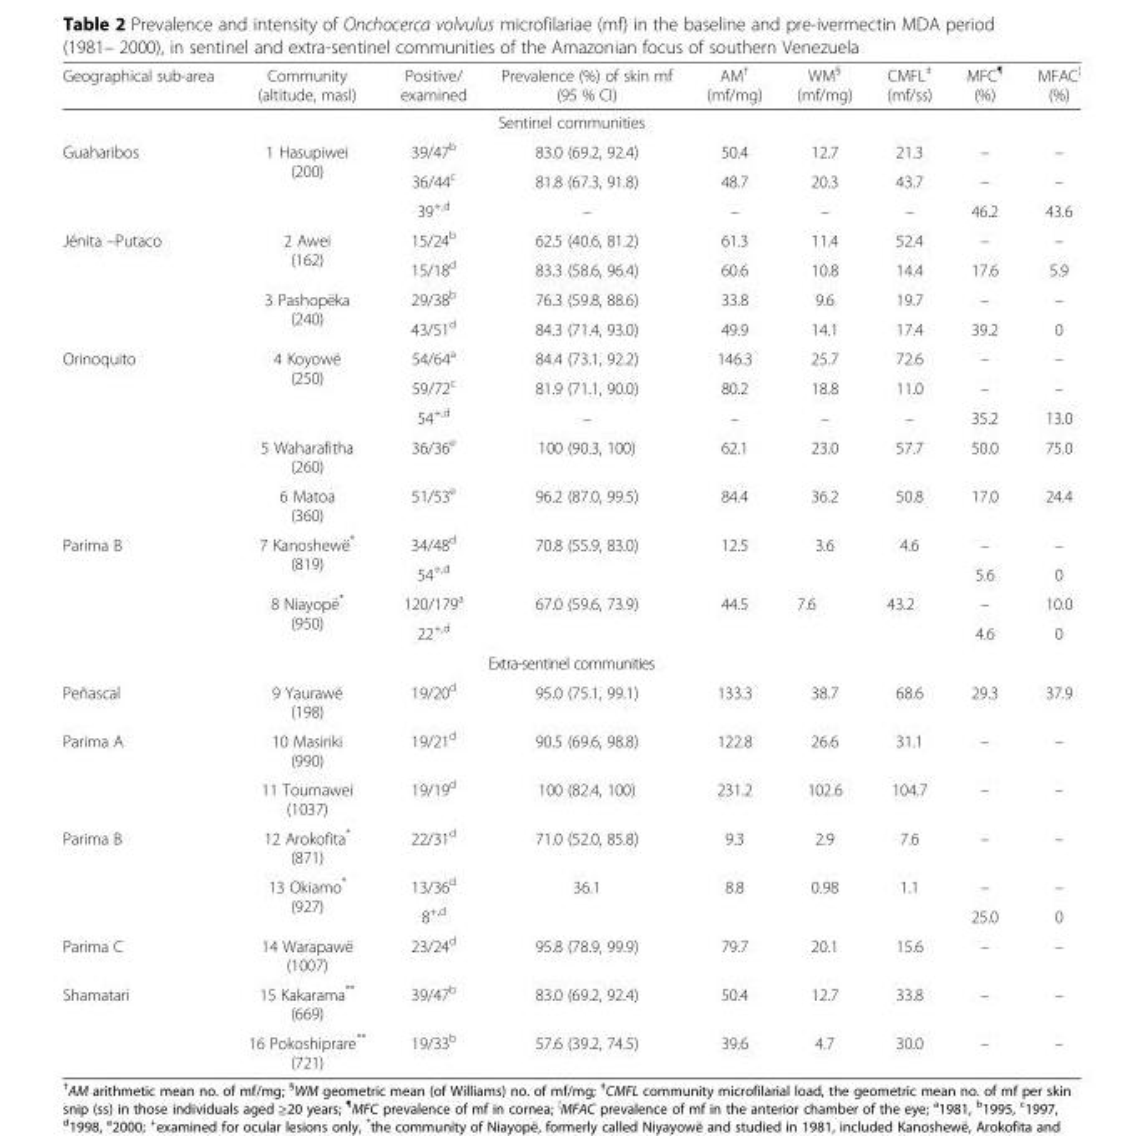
<table><thead><tr><td>Geographical sub-area</td><td>Community (altitude, masl)</td><td>Positive/ examined</td><td>Prevalence (%) of skin mf (95 % CI)</td><td>AM<sup>†</sup> (mf/mg)</td><td>WM<sup>§</sup> (mf/mg)</td><td>CMFL<sup>‡</sup> (mf/ss)</td><td>MFC<sup>¶</sup> (%)</td><td>MFAC<sup>¦</sup> (%)</td></tr></thead><tbody><tr><td colspan="9">Sentinel communities</td></tr><tr><td rowspan="3">Guaharibos</td><td rowspan="3">1 Hasupiwei (200)</td><td>39/47<sup>b</sup></td><td>83.0 (69.2, 92.4)</td><td>50.4</td><td>12.7</td><td>21.3</td><td>–</td><td>–</td></tr><tr><td>36/44<sup>c</sup></td><td>81.8 (67.3, 91.8)</td><td>48.7</td><td>20.3</td><td>43.7</td><td>–</td><td>–</td></tr><tr><td>39<sup>+,d</sup></td><td>–</td><td>–</td><td>–</td><td>–</td><td>46.2</td><td>43.6</td></tr><tr><td rowspan="4">Jénita –Putaco</td><td rowspan="2">2 Awei (162)</td><td>15/24<sup>b</sup></td><td>62.5 (40.6, 81.2)</td><td>61.3</td><td>11.4</td><td>52.4</td><td>–</td><td>–</td></tr><tr><td>15/18<sup>d</sup></td><td>83.3 (58.6, 96.4)</td><td>60.6</td><td>10.8</td><td>14.4</td><td>17.6</td><td>5.9</td></tr><tr><td rowspan="2">3 Pashopëka (240)</td><td>29/38<sup>b</sup></td><td>76.3 (59.8, 88.6)</td><td>33.8</td><td>9.6</td><td>19.7</td><td>–</td><td>–</td></tr><tr><td>43/51<sup>d</sup></td><td>84.3 (71.4, 93.0)</td><td>49.9</td><td>14.1</td><td>17.4</td><td>39.2</td><td>0</td></tr><tr><td rowspan="5">Orinoquito</td><td rowspan="3">4 Koyowë (250)</td><td>54/64<sup>a</sup></td><td>84.4 (73.1, 92.2)</td><td>146.3</td><td>25.7</td><td>72.6</td><td>–</td><td>–</td></tr><tr><td>59/72<sup>c</sup></td><td>81.9 (71.1, 90.0)</td><td>80.2</td><td>18.8</td><td>11.0</td><td>–</td><td>–</td></tr><tr><td>54<sup>+,d</sup></td><td>–</td><td>–</td><td>–</td><td>–</td><td>35.2</td><td>13.0</td></tr><tr><td>5 Waharafitha (260)</td><td>36/36<sup>e</sup></td><td>100 (90.3, 100)</td><td>62.1</td><td>23.0</td><td>57.7</td><td>50.0</td><td>75.0</td></tr><tr><td>6 Matoa (360)</td><td>51/53<sup>e</sup></td><td>96.2 (87.0, 99.5)</td><td>84.4</td><td>36.2</td><td>50.8</td><td>17.0</td><td>24.4</td></tr><tr><td rowspan="4">Parima B</td><td rowspan="2">7 Kanoshewë* (819)</td><td>34/48<sup>d</sup></td><td rowspan="2">70.8 (55.9, 83.0)</td><td rowspan="2">12.5</td><td rowspan="2">3.6</td><td rowspan="2">4.6</td><td>–</td><td>–</td></tr><tr><td>54<sup>+,d</sup></td><td>5.6</td><td>0</td></tr><tr><td rowspan="2">8 Niayopë* (950)</td><td>120/179<sup>a</sup></td><td rowspan="2">67.0 (59.6, 73.9)</td><td rowspan="2">44.5</td><td rowspan="2">7.6</td><td rowspan="2">43.2</td><td>–</td><td>10.0</td></tr><tr><td>22<sup>+,d</sup></td><td>4.6</td><td>0</td></tr><tr><td colspan="9">Extra-sentinel communities</td></tr><tr><td>Peñascal</td><td>9 Yaurawë (198)</td><td>19/20<sup>d</sup></td><td>95.0 (75.1, 99.1)</td><td>133.3</td><td>38.7</td><td>68.6</td><td>29.3</td><td>37.9</td></tr><tr><td rowspan="2">Parima A</td><td>10 Masiriki (990)</td><td>19/21<sup>d</sup></td><td>90.5 (69.6, 98.8)</td><td>122.8</td><td>26.6</td><td>31.1</td><td>–</td><td>–</td></tr><tr><td>11 Toumawei (1037)</td><td>19/19<sup>d</sup></td><td>100 (82.4, 100)</td><td>231.2</td><td>102.6</td><td>104.7</td><td>–</td><td>–</td></tr><tr><td rowspan="3">Parima B</td><td>12 Arokofita* (871)</td><td>22/31<sup>d</sup></td><td>71.0 (52.0, 85.8)</td><td>9.3</td><td>2.9</td><td>7.6</td><td>–</td><td>–</td></tr><tr><td rowspan="2">13 Okiamo* (927)</td><td>13/36<sup>d</sup></td><td rowspan="2">36.1</td><td rowspan="2">8.8</td><td rowspan="2">0.98</td><td rowspan="2">1.1</td><td>–</td><td>–</td></tr><tr><td>8<sup>+,d</sup></td><td>25.0</td><td>0</td></tr><tr><td>Parima C</td><td>14 Warapawë (1007)</td><td>23/24<sup>d</sup></td><td>95.8 (78.9, 99.9)</td><td>79.7</td><td>20.1</td><td>15.6</td><td>–</td><td>–</td></tr><tr><td rowspan="2">Shamatari</td><td>15 Kakarama** (669)</td><td>39/47<sup>b</sup></td><td>83.0 (69.2, 92.4)</td><td>50.4</td><td>12.7</td><td>33.8</td><td>–</td><td>–</td></tr><tr><td>16 Pokoshiprare** (721)</td><td>19/33<sup>b</sup></td><td>57.6 (39.2, 74.5)</td><td>39.6</td><td>4.7</td><td>30.0</td><td>–</td><td>–</td></tr></tbody></table>